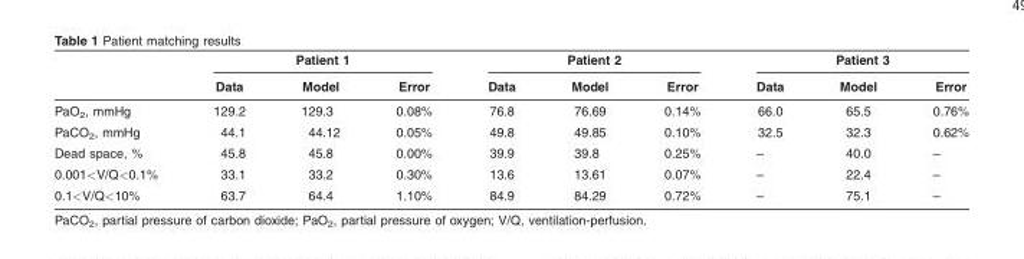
<table><thead><tr><td rowspan="2"></td><td colspan="3">Patient 1</td><td colspan="3">Patient 2</td><td colspan="3">Patient 3</td></tr><tr><td>Data</td><td>Model</td><td>Error</td><td>Data</td><td>Model</td><td>Error</td><td>Data</td><td>Model</td><td>Error</td></tr></thead><tbody><tr><td>PaO<sub>2</sub>, mmHg</td><td>129.2</td><td>129.3</td><td>0.08%</td><td>76.8</td><td>76.69</td><td>0.14%</td><td>66.0</td><td>65.5</td><td>0.76%</td></tr><tr><td>PaCO<sub>2</sub>, mmHg</td><td>44.1</td><td>44.12</td><td>0.05%</td><td>49.8</td><td>49.85</td><td>0.10%</td><td>32.5</td><td>32.3</td><td>0.62%</td></tr><tr><td>Dead space, %</td><td>45.8</td><td>45.8</td><td>0.00%</td><td>39.9</td><td>39.8</td><td>0.25%</td><td>–</td><td>40.0</td><td>–</td></tr><tr><td>0.001&lt;V/Q&lt;0.1%</td><td>33.1</td><td>33.2</td><td>0.30%</td><td>13.6</td><td>13.61</td><td>0.07%</td><td>–</td><td>22.4</td><td>–</td></tr><tr><td>0.1&lt;V/Q&lt;10%</td><td>63.7</td><td>64.4</td><td>1.10%</td><td>84.9</td><td>84.29</td><td>0.72%</td><td>–</td><td>75.1</td><td>–</td></tr></tbody></table>